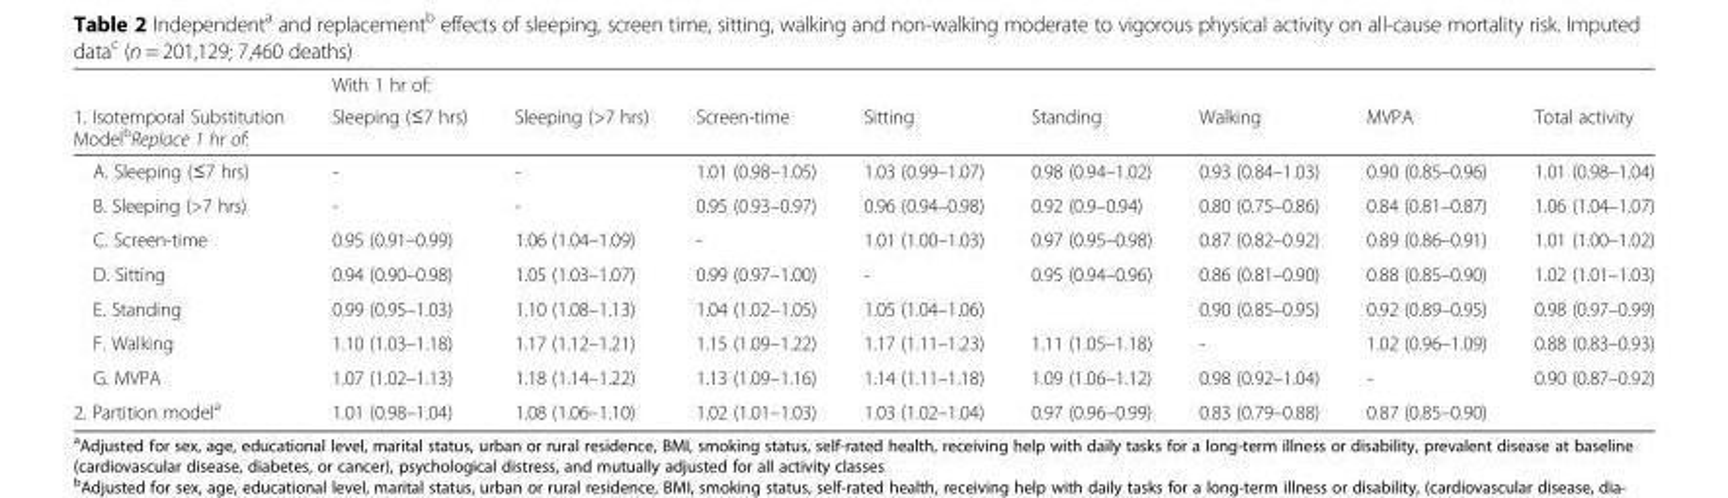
<table><thead><tr><td rowspan="2">1. Isotemporal Substitution Model<sup>b</sup>Replace 1 hr of:</td><td rowspan="2">With 1 hr of: Sleeping (≤7 hrs)</td><td rowspan="2">Sleeping (&gt;7 hrs)</td><td rowspan="2">Screen-time</td><td rowspan="2">Sitting</td><td rowspan="2">Standing</td><td rowspan="2">Walking</td><td rowspan="2">MVPA</td><td rowspan="2">Total activity</td></tr><tr></tr></thead><tbody><tr><td>A. Sleeping (≤7 hrs)</td><td>-</td><td>-</td><td>1.01 (0.98–1.05)</td><td>1.03 (0.99–1.07)</td><td>0.98 (0.94–1.02)</td><td>0.93 (0.84–1.03)</td><td>0.90 (0.85–0.96)</td><td>1.01 (0.98–1.04)</td></tr><tr><td>B. Sleeping (&gt;7 hrs)</td><td>-</td><td>-</td><td>0.95 (0.93–0.97)</td><td>0.96 (0.94–0.98)</td><td>0.92 (0.9–0.94)</td><td>0.80 (0.75–0.86)</td><td>0.84 (0.81–0.87)</td><td>1.06 (1.04–1.07)</td></tr><tr><td>C. Screen-time</td><td>0.95 (0.91–0.99)</td><td>1.06 (1.04–1.09)</td><td>-</td><td>1.01 (1.00–1.03)</td><td>0.97 (0.95–0.98)</td><td>0.87 (0.82–0.92)</td><td>0.89 (0.86–0.91)</td><td>1.01 (1.00–1.02)</td></tr><tr><td>D. Sitting</td><td>0.94 (0.90–0.98)</td><td>1.05 (1.03–1.07)</td><td>0.99 (0.97–1.00)</td><td>-</td><td>0.95 (0.94–0.96)</td><td>0.86 (0.81–0.90)</td><td>0.88 (0.85–0.90)</td><td>1.02 (1.01–1.03)</td></tr><tr><td>E. Standing</td><td>0.99 (0.95–1.03)</td><td>1.10 (1.08–1.13)</td><td>1.04 (1.02–1.05)</td><td>1.05 (1.04–1.06)</td><td></td><td>0.90 (0.85–0.95)</td><td>0.92 (0.89–0.95)</td><td>0.98 (0.97–0.99)</td></tr><tr><td>F. Walking</td><td>1.10 (1.03–1.18)</td><td>1.17 (1.12–1.21)</td><td>1.15 (1.09–1.22)</td><td>1.17 (1.11–1.23)</td><td>1.11 (1.05–1.18)</td><td>-</td><td>1.02 (0.96–1.09)</td><td>0.88 (0.83–0.93)</td></tr><tr><td>G. MVPA</td><td>1.07 (1.02–1.13)</td><td>1.18 (1.14–1.22)</td><td>1.13 (1.09–1.16)</td><td>1.14 (1.11–1.18)</td><td>1.09 (1.06–1.12)</td><td>0.98 (0.92–1.04)</td><td>-</td><td>0.90 (0.87–0.92)</td></tr><tr><td>2. Partition model<sup>a</sup></td><td>1.01 (0.98–1.04)</td><td>1.08 (1.06–1.10)</td><td>1.02 (1.01–1.03)</td><td>1.03 (1.02–1.04)</td><td>0.97 (0.96–0.99)</td><td>0.83 (0.79–0.88)</td><td>0.87 (0.85–0.90)</td><td></td></tr></tbody></table>